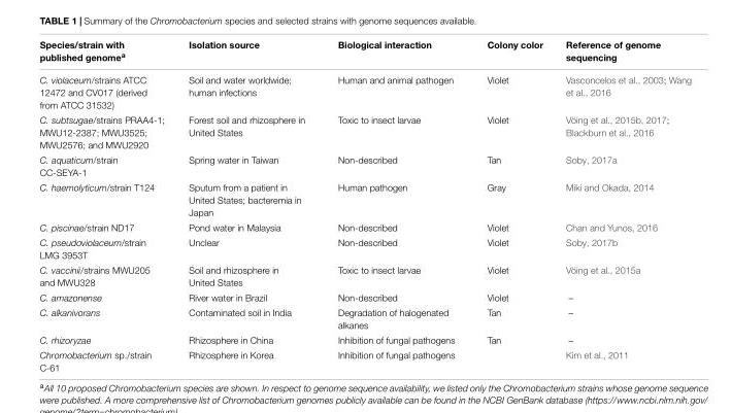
<table><thead><tr><td>Species/strain with published genome<sup>a</sup></td><td>Isolation source</td><td>Biological interaction</td><td>Colony color</td><td>Reference of genome sequencing</td></tr></thead><tbody><tr><td>C. violaceum/strains ATCC 12472 and CV017 (derived from ATCC 31532)</td><td>Soil and water worldwide; human infections</td><td>Human and animal pathogen</td><td>Violet</td><td>Vasconcelos et al., 2003; Wang et al., 2016</td></tr><tr><td>C. subtsugae/strains PRAA4-1; MWU12-2387; MWU3525; MWU2576; and MWU2920</td><td>Forest soil and rhizosphere in United States</td><td>Toxic to insect larvae</td><td>Violet</td><td>Vöing et al., 2015b, 2017; Blackburn et al., 2016</td></tr><tr><td>C. aquaticum/strain CC-SEYA-1</td><td>Spring water in Taiwan</td><td>Non-described</td><td>Tan</td><td>Soby, 2017a</td></tr><tr><td>C. haemolyticum/strain T124</td><td>Sputum from a patient in United States; bacteremia in Japan</td><td>Human pathogen</td><td>Gray</td><td>Miki and Okada, 2014</td></tr><tr><td>C. piscinae/strain ND17</td><td>Pond water in Malaysia</td><td>Non-described</td><td>Violet</td><td>Chan and Yunos, 2016</td></tr><tr><td>C. pseudoviolaceum/strain LMG 3953T</td><td>Unclear</td><td>Non-described</td><td>Violet</td><td>Soby, 2017b</td></tr><tr><td>C. vaccinii/strains MWU205 and MWU328</td><td>Soil and rhizosphere in United States</td><td>Toxic to insect larvae</td><td>Violet</td><td>Vöing et al., 2015a</td></tr><tr><td>C. amazonense</td><td>River water in Brazil</td><td>Non-described</td><td>Violet</td><td>–</td></tr><tr><td>C. alkanivorans</td><td>Contaminated soil in India</td><td>Degradation of halogenated alkanes</td><td>Tan</td><td>–</td></tr><tr><td>C. rhizoryzae</td><td>Rhizosphere in China</td><td>Inhibition of fungal pathogens</td><td>Tan</td><td>–</td></tr><tr><td>Chromobacterium sp./strain C-61</td><td>Rhizosphere in Korea</td><td>Inhibition of fungal pathogens</td><td></td><td>Kim et al., 2011</td></tr></tbody></table>